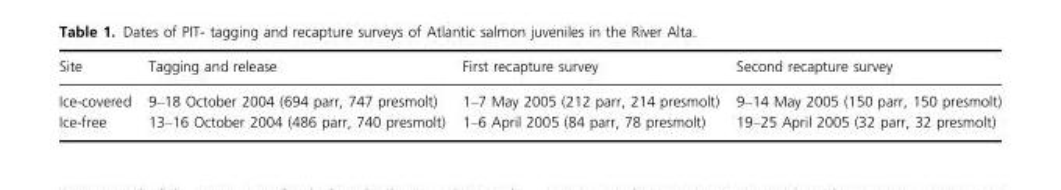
<table><thead><tr><td>Site</td><td>Tagging and release</td><td>First recapture survey</td><td>Second recapture survey</td></tr></thead><tbody><tr><td>Ice-covered</td><td>9–18 October 2004 (694 parr, 747 presmolt)</td><td>1–7 May 2005 (212 parr, 214 presmolt)</td><td>9–14 May 2005 (150 parr, 150 presmolt)</td></tr><tr><td>Ice-free</td><td>13–16 October 2004 (486 parr, 740 presmolt)</td><td>1–6 April 2005 (84 parr, 78 presmolt)</td><td>19–25 April 2005 (32 parr, 32 presmolt)</td></tr></tbody></table>